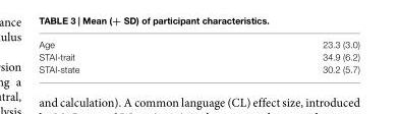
<table><tbody><tr><td>Age</td><td>23.3 (3.0)</td></tr><tr><td>STAI-trait</td><td>34.9 (6.2)</td></tr><tr><td>STAI-state</td><td>30.2 (5.7)</td></tr></tbody></table>